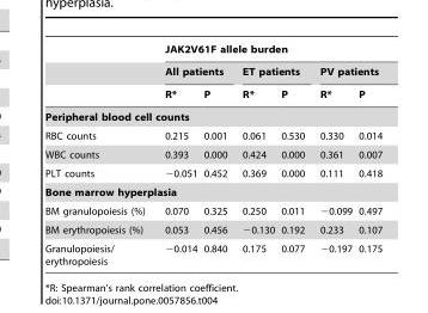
<table><thead><tr><td rowspan="3"></td><td colspan="6">JAK2V61F allele burden</td></tr><tr><td colspan="2">All patients</td><td colspan="2">ET patients</td><td colspan="2">PV patients</td></tr><tr><td>R*</td><td>P</td><td>R*</td><td>P</td><td>R*</td><td>P</td></tr></thead><tbody><tr><td colspan="7">Peripheral blood cell counts</td></tr><tr><td>RBC counts</td><td>0.215</td><td>0.001</td><td>0.061</td><td>0.530</td><td>0.330</td><td>0.014</td></tr><tr><td>WBC counts</td><td>0.393</td><td>0.000</td><td>0.424</td><td>0.000</td><td>0.361</td><td>0.007</td></tr><tr><td>PLT counts</td><td>−0.051</td><td>0.452</td><td>0.369</td><td>0.000</td><td>0.111</td><td>0.418</td></tr><tr><td colspan="7">Bone marrow hyperplasia</td></tr><tr><td>BM granulopoiesis (%)</td><td>0.070</td><td>0.325</td><td>0.250</td><td>0.011</td><td>−0.099</td><td>0.497</td></tr><tr><td>BM erythropoiesis (%)</td><td>0.053</td><td>0.456</td><td>−0.130</td><td>0.192</td><td>0.233</td><td>0.107</td></tr><tr><td>Granulopoiesis/ erythropoiesis</td><td>−0.014</td><td>0.840</td><td>0.175</td><td>0.077</td><td>−0.197</td><td>0.175</td></tr></tbody></table>